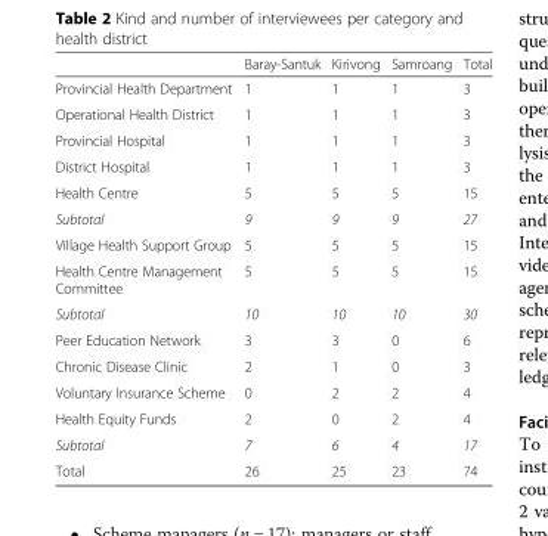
<table><thead><tr><td></td><td>Baray-Santuk</td><td>Kirivong</td><td>Samroang</td><td>Total</td></tr></thead><tbody><tr><td>Provincial Health Department</td><td>1</td><td>1</td><td>1</td><td>3</td></tr><tr><td>Operational Health District</td><td>1</td><td>1</td><td>1</td><td>3</td></tr><tr><td>Provincial Hospital</td><td>1</td><td>1</td><td>1</td><td>3</td></tr><tr><td>District Hospital</td><td>1</td><td>1</td><td>1</td><td>3</td></tr><tr><td>Health Centre</td><td>5</td><td>5</td><td>5</td><td>15</td></tr><tr><td>Subtotal</td><td>9</td><td>9</td><td>9</td><td>27</td></tr><tr><td>Village Health Support Group</td><td>5</td><td>5</td><td>5</td><td>15</td></tr><tr><td>Health Centre Management Committee</td><td>5</td><td>5</td><td>5</td><td>15</td></tr><tr><td>Subtotal</td><td>10</td><td>10</td><td>10</td><td>30</td></tr><tr><td>Peer Education Network</td><td>3</td><td>3</td><td>0</td><td>6</td></tr><tr><td>Chronic Disease Clinic</td><td>2</td><td>1</td><td>0</td><td>3</td></tr><tr><td>Voluntary Insurance Scheme</td><td>0</td><td>2</td><td>2</td><td>4</td></tr><tr><td>Health Equity Funds</td><td>2</td><td>0</td><td>2</td><td>4</td></tr><tr><td>Subtotal</td><td>7</td><td>6</td><td>4</td><td>17</td></tr><tr><td>Total</td><td>26</td><td>25</td><td>23</td><td>74</td></tr></tbody></table>